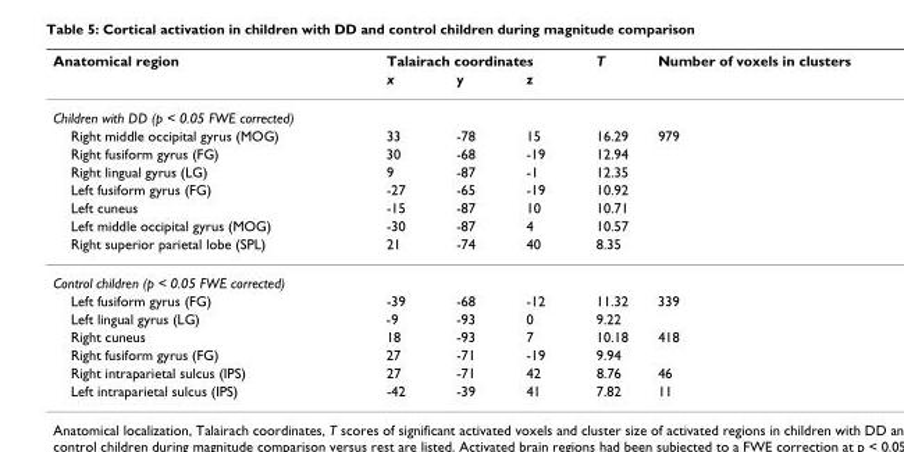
<table><thead><tr><td rowspan="2">Anatomical region</td><td colspan="3">Talairach coordinates</td><td rowspan="2">T</td><td rowspan="2">Number of voxels in clusters</td></tr><tr><td>x</td><td>y</td><td>z</td></tr></thead><tbody><tr><td colspan="6">Children with DD (p &lt; 0.05 FWE corrected)</td></tr><tr><td>Right middle occipital gyrus (MOG)</td><td>33</td><td>-78</td><td>15</td><td>16.29</td><td>979</td></tr><tr><td>Right fusiform gyrus (FG)</td><td>30</td><td>-68</td><td>-19</td><td>12.94</td><td></td></tr><tr><td>Right lingual gyrus (LG)</td><td>9</td><td>-87</td><td>-1</td><td>12.35</td><td></td></tr><tr><td>Left fusiform gyrus (FG)</td><td>-27</td><td>-65</td><td>-19</td><td>10.92</td><td></td></tr><tr><td>Left cuneus</td><td>-15</td><td>-87</td><td>10</td><td>10.71</td><td></td></tr><tr><td>Left middle occipital gyrus (MOG)</td><td>-30</td><td>-87</td><td>4</td><td>10.57</td><td></td></tr><tr><td>Right superior parietal lobe (SPL)</td><td>21</td><td>-74</td><td>40</td><td>8.35</td><td></td></tr><tr><td colspan="6">Control children (p &lt; 0.05 FWE corrected)</td></tr><tr><td>Left fusiform gyrus (FG)</td><td>-39</td><td>-68</td><td>-12</td><td>11.32</td><td>339</td></tr><tr><td>Left lingual gyrus (LG)</td><td>-9</td><td>-93</td><td>0</td><td>9.22</td><td></td></tr><tr><td>Right cuneus</td><td>18</td><td>-93</td><td>7</td><td>10.18</td><td>418</td></tr><tr><td>Right fusiform gyrus (FG)</td><td>27</td><td>-71</td><td>-19</td><td>9.94</td><td></td></tr><tr><td>Right intraparietal sulcus (IPS)</td><td>27</td><td>-71</td><td>42</td><td>8.76</td><td>46</td></tr><tr><td>Left intraparietal sulcus (IPS)</td><td>-42</td><td>-39</td><td>41</td><td>7.82</td><td>11</td></tr></tbody></table>